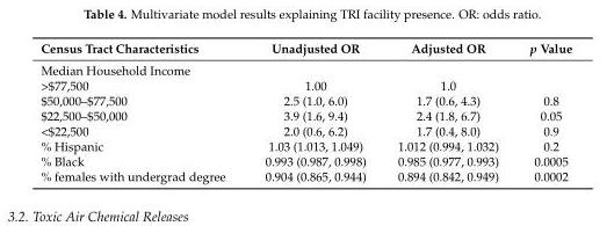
<table><thead><tr><td>Census Tract Characteristics</td><td>Unadjusted OR</td><td>Adjusted OR</td><td>p Value</td></tr></thead><tbody><tr><td colspan="4">Median Household Income</td></tr><tr><td>&gt;$77,500</td><td>1.00</td><td>1.0</td><td></td></tr><tr><td>$50,000–$77,500</td><td>2.5 (1.0, 6.0)</td><td>1.7 (0.6, 4.3)</td><td>0.8</td></tr><tr><td>$22,500–$50,000</td><td>3.9 (1.6, 9.4)</td><td>2.4 (1.8, 6.7)</td><td>0.05</td></tr><tr><td>&lt;$22,500</td><td>2.0 (0.6, 6.2)</td><td>1.7 (0.4, 8.0)</td><td>0.9</td></tr><tr><td>% Hispanic</td><td>1.03 (1.013, 1.049)</td><td>1.012 (0.994, 1.032)</td><td>0.2</td></tr><tr><td>% Black</td><td>0.993 (0.987, 0.998)</td><td>0.985 (0.977, 0.993)</td><td>0.0005</td></tr><tr><td>% females with undergrad degree</td><td>0.904 (0.865, 0.944)</td><td>0.894 (0.842, 0.949)</td><td>0.0002</td></tr></tbody></table>